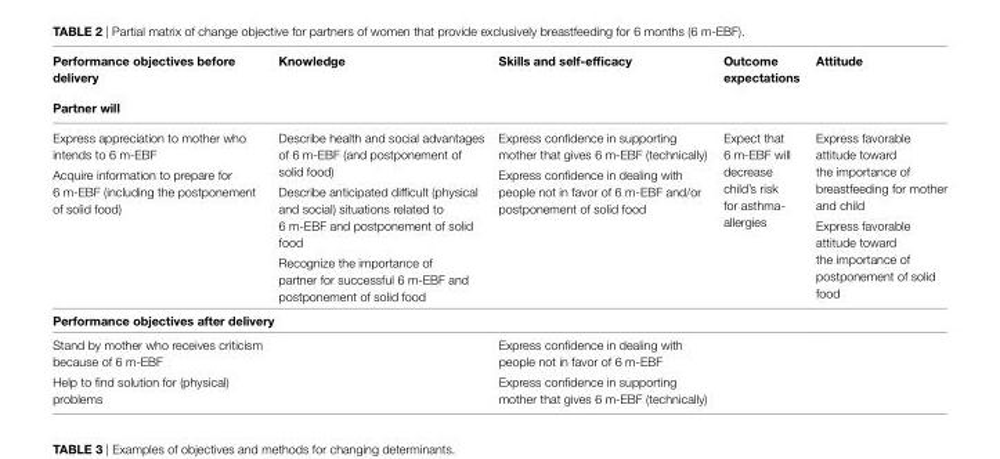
<table><thead><tr><td rowspan="2">Performance objectives before delivery Partner will</td><td rowspan="2">Knowledge</td><td rowspan="2">skills and self-efficacy</td><td rowspan="2">outcome expectations</td><td rowspan="2">Attitude</td></tr><tr></tr></thead><tbody><tr><td>Express appreciation to mother who intends to 6 m-EBF Acquire information to prepare for 6 m-EBF (including the postponement of solid food)</td><td>Describe health and social advantages of 6 m-EBF (and postponement of solid food) Describe anticipated difficult (physical and social) situations related to 6 m-EBF and postponement of solid food Recognize the importance of partner for successful 6 m-EBF and postponement of solid food</td><td>Express confidence in supporting mother that gives 6 m-EBF (technically) Express confidence in dealing with people not in favor of 6 m-EBF and/or postponement of solid food</td><td>Expect that 6 m-EBF will decrease child’s risk for asthma- allergies</td><td>Express favorable attitude toward the importance of breastfeeding for mother and child Express favorable attitude toward the importance of postponement of solid food</td></tr><tr><td colspan="5">Performance objectives after delivery</td></tr><tr><td>Stand by mother who receives criticism because of 6 m-EBF Help to find solution for (physical) problems</td><td></td><td>Express confidence in dealing with people not in favor of 6 m-EBF Express confidence in supporting mother that gives 6 m-EBF (technically)</td><td></td><td></td></tr></tbody></table>